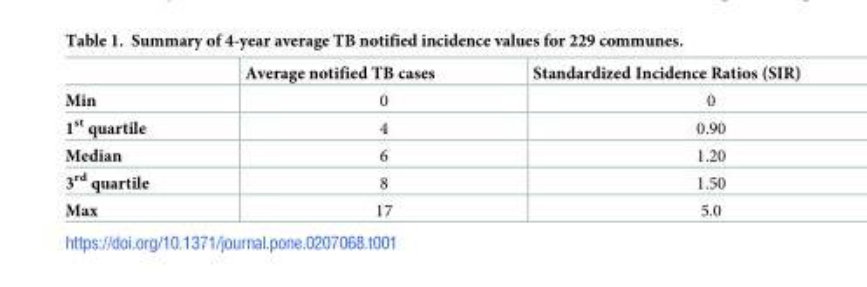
<table><thead><tr><td></td><td>Average notified TB cases</td><td>Standardized Incidence Ratios (SIR)</td></tr></thead><tbody><tr><td>Min</td><td>0</td><td>0</td></tr><tr><td>1<sup>st</sup> quartile</td><td>4</td><td>0.90</td></tr><tr><td>Median</td><td>6</td><td>1.20</td></tr><tr><td>3<sup>rd</sup> quartile</td><td>8</td><td>1.50</td></tr><tr><td>Max</td><td>17</td><td>5.0</td></tr></tbody></table>